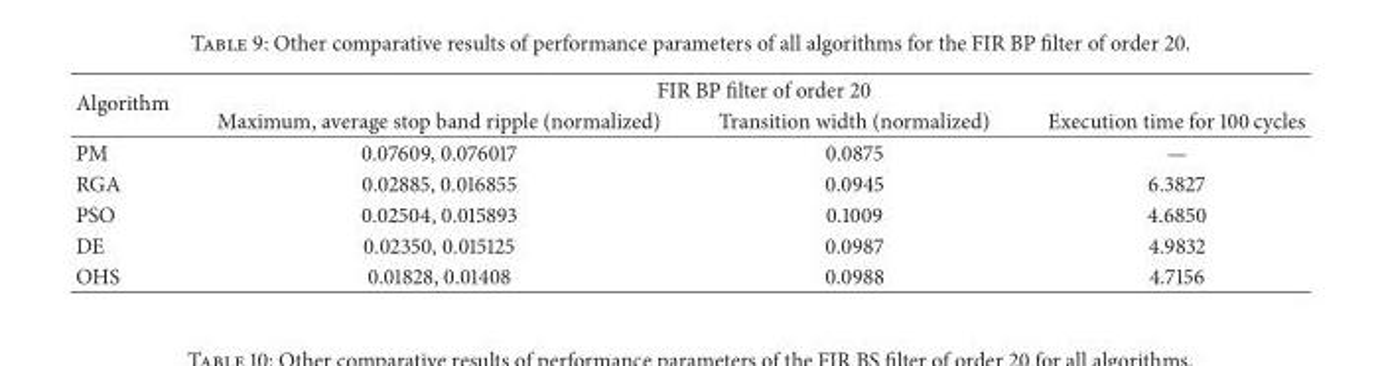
<table><thead><tr><td rowspan="2">Algorithm</td><td colspan="3">FIR BP filter of order 20</td></tr><tr><td>Maximum, average stop band ripple (normalized)</td><td>Transition width (normalized)</td><td>Execution time for 100 cycles</td></tr></thead><tbody><tr><td>PM</td><td>0.07609, 0.076017</td><td>0.0875</td><td>—</td></tr><tr><td>RGA</td><td>0.02885, 0.016855</td><td>0.0945</td><td>6.3827</td></tr><tr><td>PSO</td><td>0.02504, 0.015893</td><td>0.1009</td><td>4.6850</td></tr><tr><td>DE</td><td>0.02350, 0.015125</td><td>0.0987</td><td>4.9832</td></tr><tr><td>OHS</td><td>0.01828, 0.01408</td><td>0.0988</td><td>4.7156</td></tr></tbody></table>